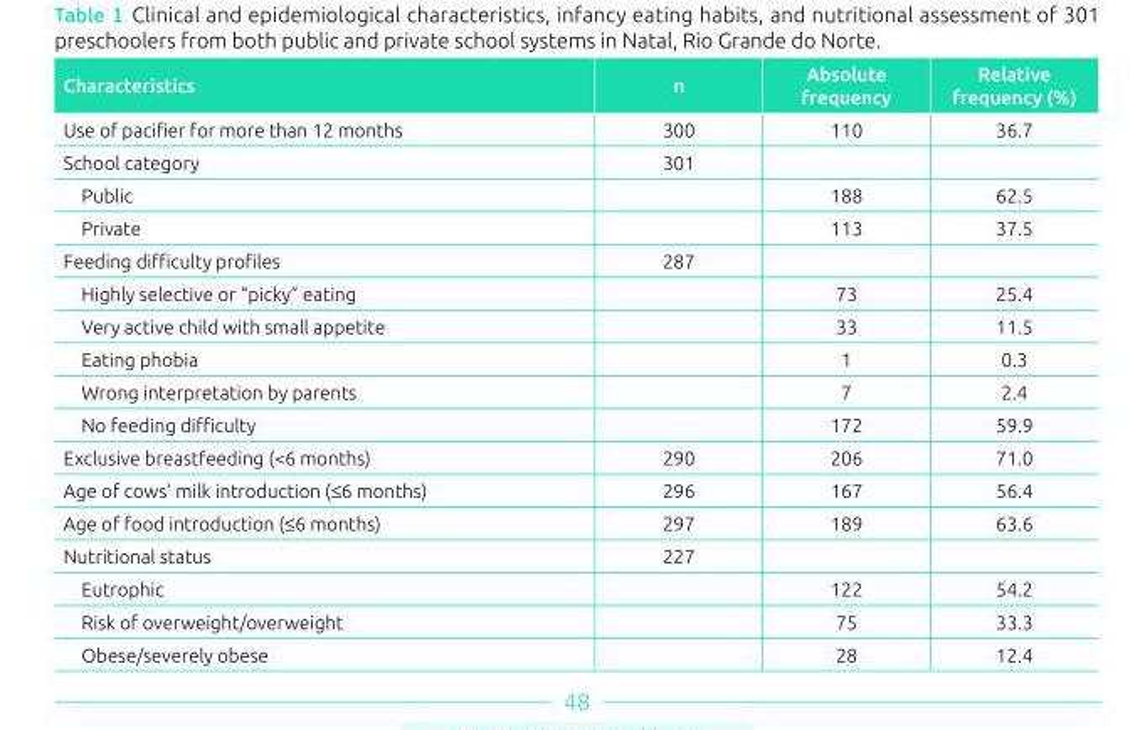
<table><thead><tr><td>Characteristics</td><td>n</td><td>Absolute frequency</td><td>Relative frequency (%)</td></tr></thead><tbody><tr><td>Use of pacifier for more than 12 months</td><td>300</td><td>110</td><td>36.7</td></tr><tr><td>School category</td><td>301</td><td></td><td></td></tr><tr><td>Public</td><td></td><td>188</td><td>62.5</td></tr><tr><td>Private</td><td></td><td>113</td><td>37.5</td></tr><tr><td>Feeding difficulty profiles</td><td>287</td><td></td><td></td></tr><tr><td>Highly selective or “picky” eating</td><td></td><td>73</td><td>25.4</td></tr><tr><td>Very active child with small appetite</td><td></td><td>33</td><td>11.5</td></tr><tr><td>Eating phobia</td><td></td><td>1</td><td>0.3</td></tr><tr><td>Wrong interpretation by parents</td><td></td><td>7</td><td>2.4</td></tr><tr><td>No feeding difficulty</td><td></td><td>172</td><td>59.9</td></tr><tr><td>Exclusive breastfeeding (&lt;6 months)</td><td>290</td><td>206</td><td>71.0</td></tr><tr><td>Age of cows’ milk introduction (≤6 months)</td><td>296</td><td>167</td><td>56.4</td></tr><tr><td>Age of food introduction (≤6 months)</td><td>297</td><td>189</td><td>63.6</td></tr><tr><td>Nutritional status</td><td>227</td><td></td><td></td></tr><tr><td>Eutrophic</td><td></td><td>122</td><td>54.2</td></tr><tr><td>Risk of overweight/overweight</td><td></td><td>75</td><td>33.3</td></tr><tr><td>Obese/severely obese</td><td></td><td>28</td><td>12.4</td></tr></tbody></table>